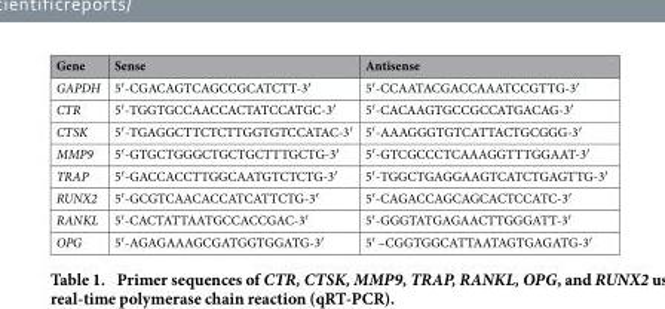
<table><thead><tr><td>Gene</td><td>Sense</td><td>Antisense</td></tr></thead><tbody><tr><td>GAPDH</td><td>5′ -CGACAGTCAGCCGCATCTT-3′</td><td>5′ -CCAATACGACCAAATCCGTTG-3′</td></tr><tr><td>CTR</td><td>5′ -TGGTGCCAACCACTATCCATGC-3′</td><td>5′ -CACAAGTGCCGCCATGACAG-3′</td></tr><tr><td>CTSK</td><td>5′ -TGAGGCTTCTCTTGGTGTCCATAC-3′</td><td>5′ -AAAGGGTGTCATTACTGCGGG-3′</td></tr><tr><td>MMP9</td><td>5′ -GTGCTGGGCTGCTGCTTTGCTG-3′</td><td>5′ -GTCGCCCTCAAAGGTTTGGAAT-3′</td></tr><tr><td>TRAP</td><td>5′ -GACCACCTTGGCAATGTCTCTG-3′</td><td>5′ -TGGCTGAGGAAGTCATCTGAGTTG-3′</td></tr><tr><td>RUNX2</td><td>5′ -GCGTCAACACCATCATTCTG-3′</td><td>5′ -CAGACCAGCAGCACTCCATC-3′</td></tr><tr><td>RANKL</td><td>5′ -CACTATTAATGCCACCGAC-3′</td><td>5′ -GGGTATGAGAACTTGGGATT-3′</td></tr><tr><td>OPG</td><td>5′ -AGAGAAAGCGATGGTGGATG-3′</td><td>5′ –CGGTGGCATTAATAGTGAGATG-3′</td></tr></tbody></table>